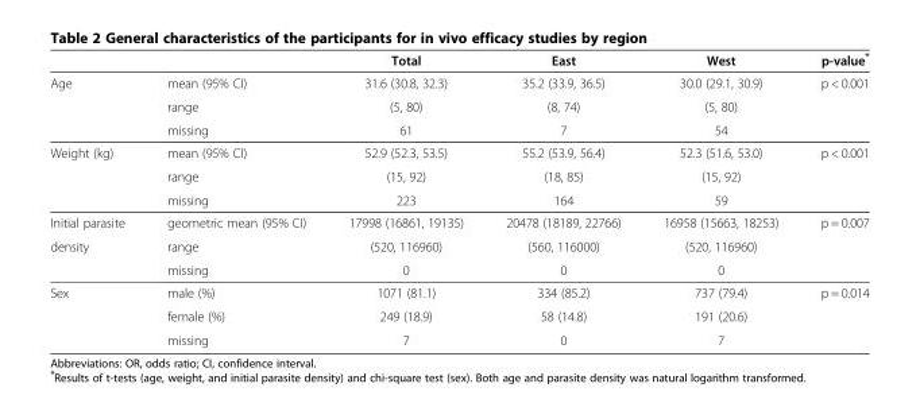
<table><thead><tr><td></td><td></td><td>Total</td><td>East</td><td>West</td><td>p-value*</td></tr></thead><tbody><tr><td rowspan="3">Age</td><td>mean (95% CI)</td><td>31.6 (30.8, 32.3)</td><td>35.2 (33.9, 36.5)</td><td>30.0 (29.1, 30.9)</td><td>p &lt; 0.001</td></tr><tr><td>range</td><td>(5, 80)</td><td>(8, 74)</td><td>(5, 80)</td><td></td></tr><tr><td>missing</td><td>61</td><td>7</td><td>54</td><td></td></tr><tr><td rowspan="3">Weight (kg)</td><td>mean (95% CI)</td><td>52.9 (52.3, 53.5)</td><td>55.2 (53.9, 56.4)</td><td>52.3 (51.6, 53.0)</td><td>p &lt; 0.001</td></tr><tr><td>range</td><td>(15, 92)</td><td>(18, 85)</td><td>(15, 92)</td><td></td></tr><tr><td>missing</td><td>223</td><td>164</td><td>59</td><td></td></tr><tr><td>Initial parasite</td><td>geometric mean (95% CI)</td><td>17998 (16861, 19135)</td><td>20478 (18189, 22766)</td><td>16958 (15663, 18253)</td><td>p = 0.007</td></tr><tr><td rowspan="2">density</td><td>range</td><td>(520, 116960)</td><td>(560, 116000)</td><td>(520, 116960)</td><td></td></tr><tr><td>missing</td><td>0</td><td>0</td><td>0</td><td></td></tr><tr><td rowspan="3">Sex</td><td>male (%)</td><td>1071 (81.1)</td><td>334 (85.2)</td><td>737 (79.4)</td><td>p = 0.014</td></tr><tr><td>female (%)</td><td>249 (18.9)</td><td>58 (14.8)</td><td>191 (20.6)</td><td></td></tr><tr><td>missing</td><td>7</td><td>0</td><td>7</td><td></td></tr></tbody></table>